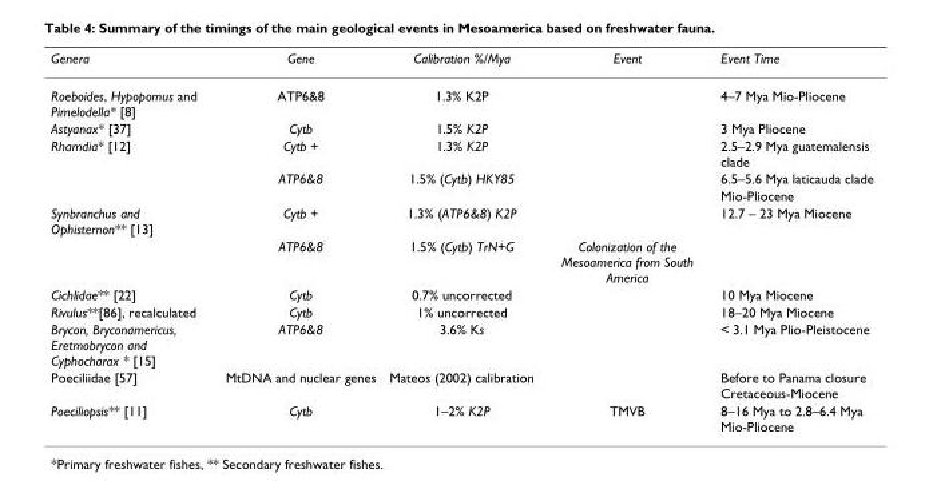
<table><thead><tr><td>Genera</td><td>Gene</td><td>Calibration %/Mya</td><td>Event</td><td>Event Time</td></tr></thead><tbody><tr><td>Roeboides, Hypopomus and Pimelodella* [8]</td><td>ATP6&amp;8</td><td>1.3% K2P</td><td></td><td>4–7 Mya Mio-Pliocene</td></tr><tr><td>Astyanax* [37]</td><td>Cytb</td><td>1.5% K2P</td><td></td><td>3 Mya Pliocene</td></tr><tr><td rowspan="3">Rhamdia* [12]</td><td>Cytb +</td><td>1.3% K2P</td><td></td><td>2.5–2.9 Mya guatemalensis clade</td></tr><tr><td>ATP6&amp;8</td><td>1.5% (Cytb) HKY85</td><td></td><td>6.5–5.6 Mya laticauda clade</td></tr><tr><td></td><td></td><td></td><td>Mio-Pliocene</td></tr><tr><td rowspan="2">Synbranchus and Ophisternon** [13]</td><td>Cytb +</td><td>1.3% (ATP6&amp;8) K2P</td><td></td><td>12.7 – 23 Mya Miocene</td></tr><tr><td>ATP6&amp;8</td><td>1.5% (Cytb) TrN+G</td><td>Colonization of the Mesoamerica from South America</td><td></td></tr><tr><td>Cichlidae** [22]</td><td>Cytb</td><td>0.7% uncorrected</td><td></td><td>10 Mya Miocene</td></tr><tr><td>Rivulus**[86], recalculated</td><td>Cytb</td><td>1% uncorrected</td><td></td><td>18–20 Mya Miocene</td></tr><tr><td>Brycon, Bryconamericus, Eretmobrycon and Cyphocharax * [15]</td><td>ATP6&amp;8</td><td>3.6% Ks</td><td></td><td>&lt; 3.1 Mya Plio-Pleistocene</td></tr><tr><td>Poeciliidae [57]</td><td>MtDNA and nuclear genes</td><td>Mateos (2002) calibration</td><td></td><td>Before to Panama closure Cretaceous-Miocene</td></tr><tr><td>Poeciliopsis** [11]</td><td>Cytb</td><td>1–2% K2P</td><td>TMVB</td><td>8–16 Mya to 2.8–6.4 Mya Mio-Pliocene</td></tr></tbody></table>